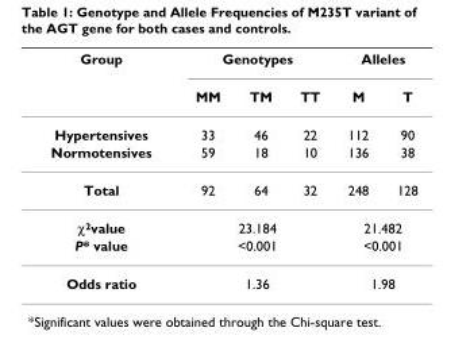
<table><thead><tr><td rowspan="2">Group</td><td colspan="3">Genotypes</td><td colspan="2">Alleles</td></tr><tr><td>MM</td><td>TM</td><td>TT</td><td>M</td><td>T</td></tr></thead><tbody><tr><td>Hypertensives</td><td>33</td><td>46</td><td>22</td><td>112</td><td>90</td></tr><tr><td>Normotensives</td><td>59</td><td>18</td><td>10</td><td>136</td><td>38</td></tr><tr><td>Total</td><td>92</td><td>64</td><td>32</td><td>248</td><td>128</td></tr><tr><td>χ<sup>2</sup>value</td><td colspan="3">23.184</td><td colspan="2">21.482</td></tr><tr><td>P* value</td><td colspan="3">&lt;0.001</td><td colspan="2">&lt;0.001</td></tr><tr><td>Odds ratio</td><td colspan="3">1.36</td><td colspan="2">1.98</td></tr></tbody></table>